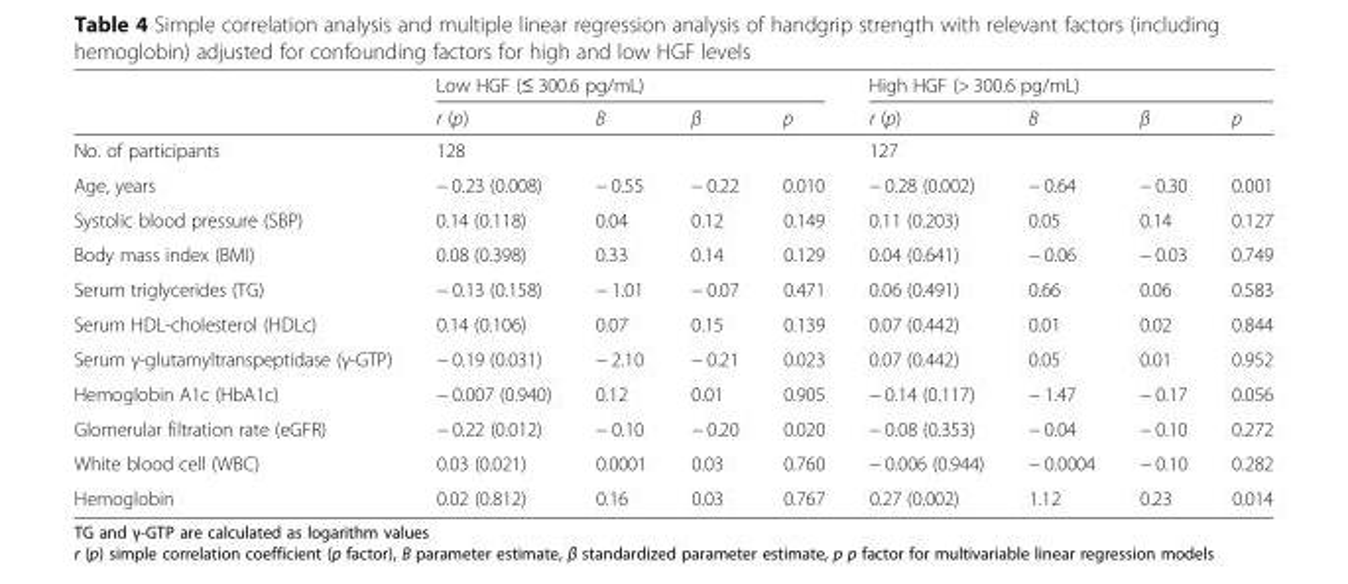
<table><thead><tr><td rowspan="2"></td><td colspan="4">Low HGF (≤ 300.6 pg/mL)</td><td colspan="4">High HGF (&gt; 300.6 pg/mL)</td></tr><tr><td>r (p)</td><td>Β</td><td>β</td><td>p</td><td>r (p)</td><td>Β</td><td>β</td><td>p</td></tr></thead><tbody><tr><td>No. of participants</td><td colspan="4">128</td><td colspan="4">127</td></tr><tr><td>Age, years</td><td>− 0.23 (0.008)</td><td>− 0.55</td><td>− 0.22</td><td>0.010</td><td>− 0.28 (0.002)</td><td>− 0.64</td><td>− 0.30</td><td>0.001</td></tr><tr><td>Systolic blood pressure (SBP)</td><td>0.14 (0.118)</td><td>0.04</td><td>0.12</td><td>0.149</td><td>0.11 (0.203)</td><td>0.05</td><td>0.14</td><td>0.127</td></tr><tr><td>Body mass index (BMI)</td><td>0.08 (0.398)</td><td>0.33</td><td>0.14</td><td>0.129</td><td>0.04 (0.641)</td><td>− 0.06</td><td>− 0.03</td><td>0.749</td></tr><tr><td>Serum triglycerides (TG)</td><td>− 0.13 (0.158)</td><td>− 1.01</td><td>− 0.07</td><td>0.471</td><td>0.06 (0.491)</td><td>0.66</td><td>0.06</td><td>0.583</td></tr><tr><td>Serum HDL-cholesterol (HDLc)</td><td>0.14 (0.106)</td><td>0.07</td><td>0.15</td><td>0.139</td><td>0.07 (0.442)</td><td>0.01</td><td>0.02</td><td>0.844</td></tr><tr><td>Serum γ-glutamyltranspeptidase (γ-GTP)</td><td>− 0.19 (0.031)</td><td>− 2.10</td><td>− 0.21</td><td>0.023</td><td>0.07 (0.442)</td><td>0.05</td><td>0.01</td><td>0.952</td></tr><tr><td>Hemoglobin A1c (HbA1c)</td><td>− 0.007 (0.940)</td><td>0.12</td><td>0.01</td><td>0.905</td><td>− 0.14 (0.117)</td><td>− 1.47</td><td>− 0.17</td><td>0.056</td></tr><tr><td>Glomerular filtration rate (eGFR)</td><td>− 0.22 (0.012)</td><td>− 0.10</td><td>− 0.20</td><td>0.020</td><td>− 0.08 (0.353)</td><td>− 0.04</td><td>− 0.10</td><td>0.272</td></tr><tr><td>White blood cell (WBC)</td><td>0.03 (0.021)</td><td>0.0001</td><td>0.03</td><td>0.760</td><td>− 0.006 (0.944)</td><td>− 0.0004</td><td>− 0.10</td><td>0.282</td></tr><tr><td>Hemoglobin</td><td>0.02 (0.812)</td><td>0.16</td><td>0.03</td><td>0.767</td><td>0.27 (0.002)</td><td>1.12</td><td>0.23</td><td>0.014</td></tr></tbody></table>